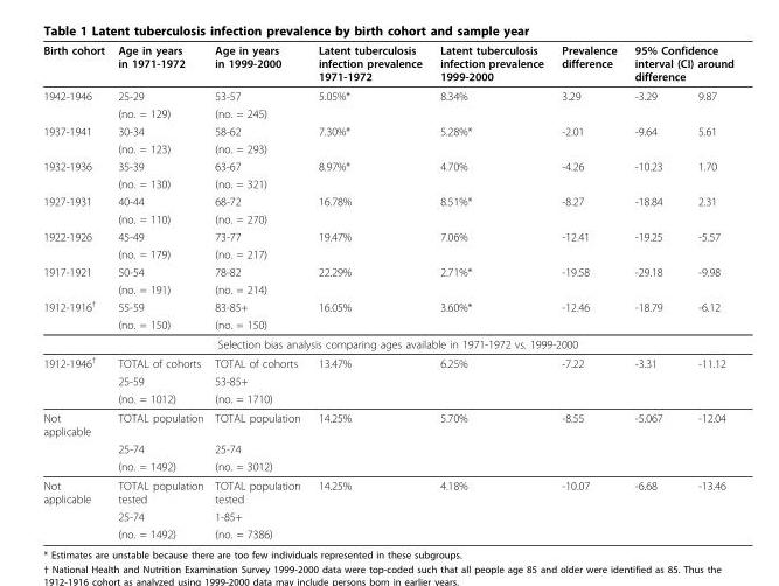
<table><thead><tr><td rowspan="2">Birth cohort 1942-1946</td><td rowspan="2">Age in years in 1971-1972 25-29</td><td rowspan="2">Age in years in 1999-2000 53-57</td><td rowspan="2">Latent tuberculosis infection prevalence 1971-1972 5.05%*</td><td rowspan="2">Latent tuberculosis infection prevalence 1999-2000 8.34%</td><td rowspan="2">Prevalence difference 3.29</td><td colspan="2">95% Confidence interval (CI) around difference</td></tr><tr><td>-3.29</td><td>9.87</td></tr></thead><tbody><tr><td></td><td>(no. = 129)</td><td>(no. = 245)</td><td></td><td></td><td></td><td></td><td></td></tr><tr><td rowspan="2">1937-1941</td><td>30-34</td><td>58-62</td><td>7.30%*</td><td>5.28%*</td><td>-2.01</td><td>-9.64</td><td>5.61</td></tr><tr><td>(no. = 123)</td><td>(no. = 293)</td><td></td><td></td><td></td><td></td><td></td></tr><tr><td rowspan="2">1932-1936</td><td>35-39</td><td>63-67</td><td>8.97%*</td><td>4.70%</td><td>-4.26</td><td>-10.23</td><td>1.70</td></tr><tr><td>(no. = 130)</td><td>(no. = 321)</td><td></td><td></td><td></td><td></td><td></td></tr><tr><td rowspan="2">1927-1931</td><td>40-44</td><td>68-72</td><td>16.78%</td><td>8.51%*</td><td>-8.27</td><td>-18.84</td><td>2.31</td></tr><tr><td>(no. = 110)</td><td>(no. = 270)</td><td></td><td></td><td></td><td></td><td></td></tr><tr><td rowspan="2">1922-1926</td><td>45-49</td><td>73-77</td><td>19.47%</td><td>7.06%</td><td>-12.41</td><td>-19.25</td><td>-5.57</td></tr><tr><td>(no. = 179)</td><td>(no. = 217)</td><td></td><td></td><td></td><td></td><td></td></tr><tr><td rowspan="2">1917-1921</td><td>50-54</td><td>78-82</td><td>22.29%</td><td>2.71%*</td><td>-19.58</td><td>-29.18</td><td>-9.98</td></tr><tr><td>(no. = 191)</td><td>(no. = 214)</td><td></td><td></td><td></td><td></td><td></td></tr><tr><td rowspan="2">1912-1916<sup>†</sup></td><td>55-59</td><td>83-85+</td><td>16.05%</td><td>3.60%*</td><td>-12.46</td><td>-18.79</td><td>-6.12</td></tr><tr><td>(no. = 150)</td><td>(no. = 150)</td><td></td><td></td><td></td><td></td><td></td></tr><tr><td colspan="8">Selection bias analysis comparing ages available in 1971-1972 vs. 1999-2000</td></tr><tr><td rowspan="3">1912-1946<sup>†</sup></td><td>TOTAL of cohorts</td><td>TOTAL of cohorts</td><td>13.47%</td><td>6.25%</td><td>-7.22</td><td>-3.31</td><td>-11.12</td></tr><tr><td>25-59</td><td>53-85+</td><td></td><td></td><td></td><td></td><td></td></tr><tr><td>(no. = 1012)</td><td>(no. = 1710)</td><td></td><td></td><td></td><td></td><td></td></tr><tr><td rowspan="3">Not applicable</td><td>TOTAL population</td><td>TOTAL population</td><td>14.25%</td><td>5.70%</td><td>-8.55</td><td>-5.067</td><td>-12.04</td></tr><tr><td>25-74</td><td>25-74</td><td></td><td></td><td></td><td></td><td></td></tr><tr><td>(no. = 1492)</td><td>(no. = 3012)</td><td></td><td></td><td></td><td></td><td></td></tr><tr><td rowspan="3">Not applicable</td><td>TOTAL population tested</td><td>TOTAL population tested</td><td>14.25%</td><td>4.18%</td><td>-10.07</td><td>-6.68</td><td>-13.46</td></tr><tr><td>25-74</td><td>1-85+</td><td></td><td></td><td></td><td></td><td></td></tr><tr><td>(no. = 1492)</td><td>(no. = 7386)</td><td></td><td></td><td></td><td></td><td></td></tr></tbody></table>